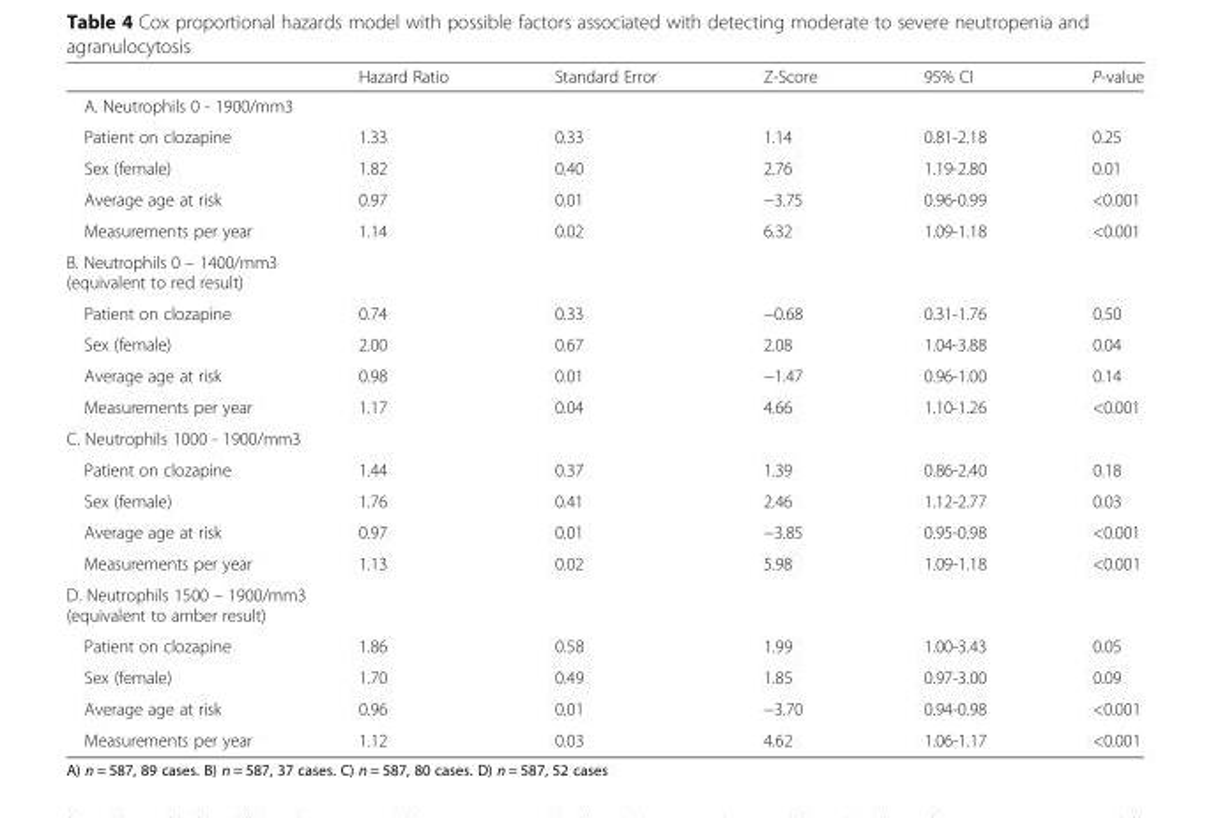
<table><thead><tr><td></td><td>Hazard Ratio</td><td>Standard Error</td><td>Z-Score</td><td>95% CI</td><td>P-value</td></tr></thead><tbody><tr><td colspan="6">A. Neutrophils 0 - 1900/mm3</td></tr><tr><td>Patient on clozapine</td><td>1.33</td><td>0.33</td><td>1.14</td><td>0.81-2.18</td><td>0.25</td></tr><tr><td>Sex (female)</td><td>1.82</td><td>0.40</td><td>2.76</td><td>1.19-2.80</td><td>0.01</td></tr><tr><td>Average age at risk</td><td>0.97</td><td>0.01</td><td>−3.75</td><td>0.96-0.99</td><td>&lt;0.001</td></tr><tr><td>Measurements per year</td><td>1.14</td><td>0.02</td><td>6.32</td><td>1.09-1.18</td><td>&lt;0.001</td></tr><tr><td colspan="6">B. Neutrophils 0 – 1400/mm3 (equivalent to red result)</td></tr><tr><td>Patient on clozapine</td><td>0.74</td><td>0.33</td><td>−0.68</td><td>0.31-1.76</td><td>0.50</td></tr><tr><td>Sex (female)</td><td>2.00</td><td>0.67</td><td>2.08</td><td>1.04-3.88</td><td>0.04</td></tr><tr><td>Average age at risk</td><td>0.98</td><td>0.01</td><td>−1.47</td><td>0.96-1.00</td><td>0.14</td></tr><tr><td>Measurements per year</td><td>1.17</td><td>0.04</td><td>4.66</td><td>1.10-1.26</td><td>&lt;0.001</td></tr><tr><td colspan="6">C. Neutrophils 1000 - 1900/mm3</td></tr><tr><td>Patient on clozapine</td><td>1.44</td><td>0.37</td><td>1.39</td><td>0.86-2.40</td><td>0.18</td></tr><tr><td>Sex (female)</td><td>1.76</td><td>0.41</td><td>2.46</td><td>1.12-2.77</td><td>0.03</td></tr><tr><td>Average age at risk</td><td>0.97</td><td>0.01</td><td>−3.85</td><td>0.95-0.98</td><td>&lt;0.001</td></tr><tr><td>Measurements per year</td><td>1.13</td><td>0.02</td><td>5.98</td><td>1.09-1.18</td><td>&lt;0.001</td></tr><tr><td colspan="6">D. Neutrophils 1500 – 1900/mm3 (equivalent to amber result)</td></tr><tr><td>Patient on clozapine</td><td>1.86</td><td>0.58</td><td>1.99</td><td>1.00-3.43</td><td>0.05</td></tr><tr><td>Sex (female)</td><td>1.70</td><td>0.49</td><td>1.85</td><td>0.97-3.00</td><td>0.09</td></tr><tr><td>Average age at risk</td><td>0.96</td><td>0.01</td><td>−3.70</td><td>0.94-0.98</td><td>&lt;0.001</td></tr><tr><td>Measurements per year</td><td>1.12</td><td>0.03</td><td>4.62</td><td>1.06-1.17</td><td>&lt;0.001</td></tr></tbody></table>